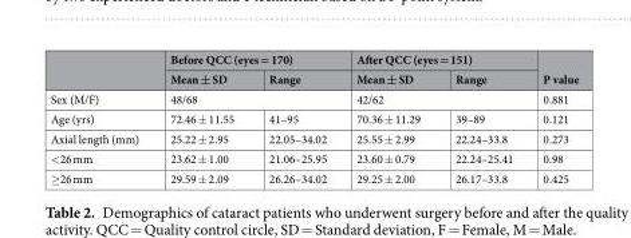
<table><thead><tr><td rowspan="2"></td><td colspan="2">Before QCC (eyes = 170)</td><td colspan="2">After QCC (eyes = 151)</td><td rowspan="2">P value</td></tr><tr><td>Mean ± SD</td><td>Range</td><td>Mean ± SD</td><td>Range</td></tr></thead><tbody><tr><td>Sex (M/F)</td><td colspan="2">48/68</td><td colspan="2">42/62</td><td>0.881</td></tr><tr><td>Age (yrs)</td><td>72.46 ± 11.55</td><td>41–95</td><td>70.36 ± 11.29</td><td>39–89</td><td>0.121</td></tr><tr><td>Axial length (mm)</td><td>25.22 ± 2.95</td><td>22.05–34.02</td><td>25.55 ± 2.99</td><td>22.24–33.8</td><td>0.273</td></tr><tr><td>&lt;26 mm</td><td>23.62 ± 1.00</td><td>21.06–25.95</td><td>23.60 ± 0.79</td><td>22.24–25.41</td><td>0.98</td></tr><tr><td>≥26 mm</td><td>29.59 ± 2.09</td><td>26.26–34.02</td><td>29.25 ± 2.00</td><td>26.17–33.8</td><td>0.425</td></tr></tbody></table>